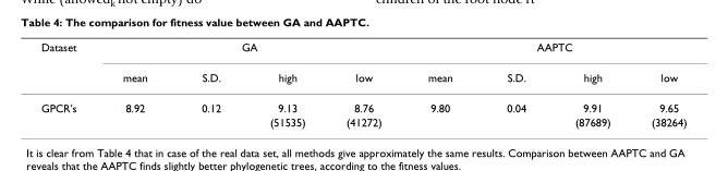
<table><thead><tr><td rowspan="2">Dataset</td><td colspan="4">GA</td><td colspan="4">AAPTC</td></tr><tr><td>mean</td><td>S.D.</td><td>high</td><td>low</td><td>mean</td><td>S.D.</td><td>high</td><td>low</td></tr></thead><tbody><tr><td rowspan="2">GPCR&#x27;s</td><td>8.92</td><td>0.12</td><td>9.13</td><td>8.76</td><td>9.80</td><td>0.04</td><td>9.91</td><td>9.65</td></tr><tr><td></td><td></td><td>(51535)</td><td>(41272)</td><td></td><td></td><td>(87689)</td><td>(38264)</td></tr></tbody></table>